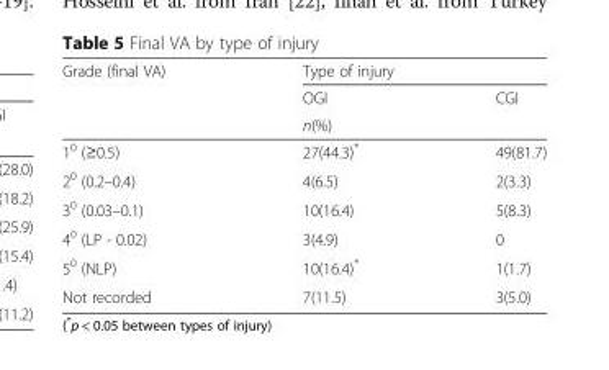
<table><thead><tr><td rowspan="3">Grade (final VA)</td><td colspan="2">Type of injury</td></tr><tr><td>OGI</td><td>CGI</td></tr><tr><td colspan="2">n(%)</td></tr></thead><tbody><tr><td>1<sup>0</sup> (≥0.5)</td><td>27(44.3)*</td><td>49(81.7)</td></tr><tr><td>2<sup>0</sup> (0.2–0.4)</td><td>4(6.5)</td><td>2(3.3)</td></tr><tr><td>3<sup>0</sup> (0.03–0.1)</td><td>10(16.4)</td><td>5(8.3)</td></tr><tr><td>4<sup>0</sup> (LP - 0.02)</td><td>3(4.9)</td><td>0</td></tr><tr><td>5<sup>0</sup> (NLP)</td><td>10(16.4)*</td><td>1(1.7)</td></tr><tr><td>Not recorded</td><td>7(11.5)</td><td>3(5.0)</td></tr></tbody></table>